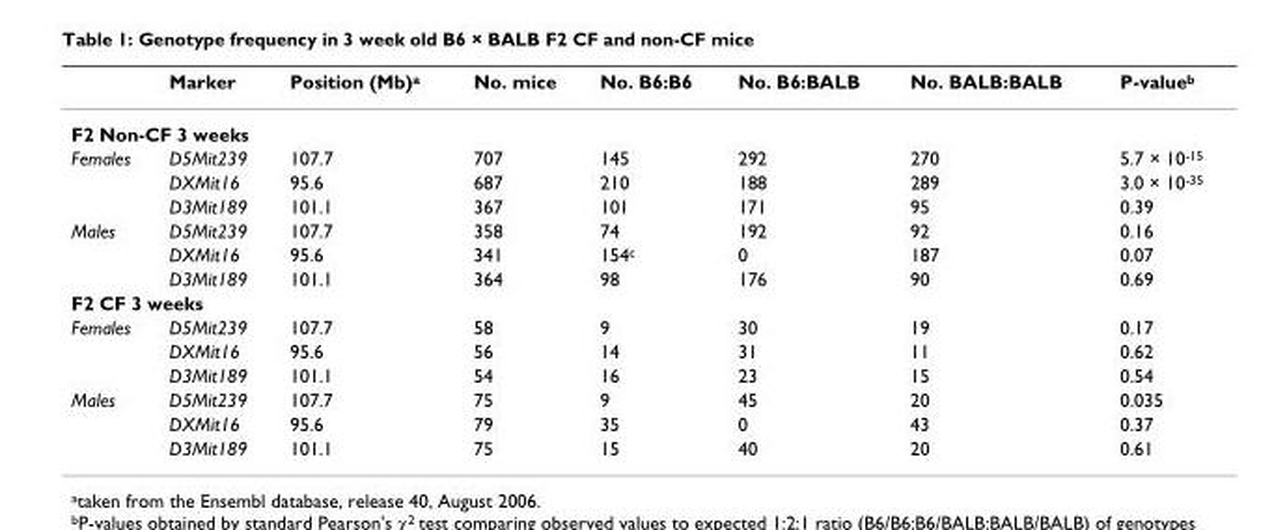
<table><thead><tr><td></td><td>Marker</td><td>Position (Mb)<sup>a</sup></td><td>No. mice</td><td>No. B6:B6</td><td>No. B6:BALB</td><td>No. BALB:BALB</td><td>P-value<sup>b</sup></td></tr></thead><tbody><tr><td colspan="8">F2 Non-CF 3 weeks</td></tr><tr><td rowspan="3">Females</td><td>D5Mit239</td><td>107.7</td><td>707</td><td>145</td><td>292</td><td>270</td><td>5.7 × 10<sup>-15</sup></td></tr><tr><td>DXMit16</td><td>95.6</td><td>687</td><td>210</td><td>188</td><td>289</td><td>3.0 × 10<sup>-35</sup></td></tr><tr><td>D3Mit189</td><td>101.1</td><td>367</td><td>101</td><td>171</td><td>95</td><td>0.39</td></tr><tr><td rowspan="3">Males</td><td>D5Mit239</td><td>107.7</td><td>358</td><td>74</td><td>192</td><td>92</td><td>0.16</td></tr><tr><td>DXMit16</td><td>95.6</td><td>341</td><td>154<sup>c</sup></td><td>0</td><td>187</td><td>0.07</td></tr><tr><td>D3Mit189</td><td>101.1</td><td>364</td><td>98</td><td>176</td><td>90</td><td>0.69</td></tr><tr><td colspan="8">F2 CF 3 weeks</td></tr><tr><td rowspan="3">Females</td><td>D5Mit239</td><td>107.7</td><td>58</td><td>9</td><td>30</td><td>19</td><td>0.17</td></tr><tr><td>DXMit16</td><td>95.6</td><td>56</td><td>14</td><td>31</td><td>11</td><td>0.62</td></tr><tr><td>D3Mit189</td><td>101.1</td><td>54</td><td>16</td><td>23</td><td>15</td><td>0.54</td></tr><tr><td rowspan="3">Males</td><td>D5Mit239</td><td>107.7</td><td>75</td><td>9</td><td>45</td><td>20</td><td>0.035</td></tr><tr><td>DXMit16</td><td>95.6</td><td>79</td><td>35</td><td>0</td><td>43</td><td>0.37</td></tr><tr><td>D3Mit189</td><td>101.1</td><td>75</td><td>15</td><td>40</td><td>20</td><td>0.61</td></tr></tbody></table>